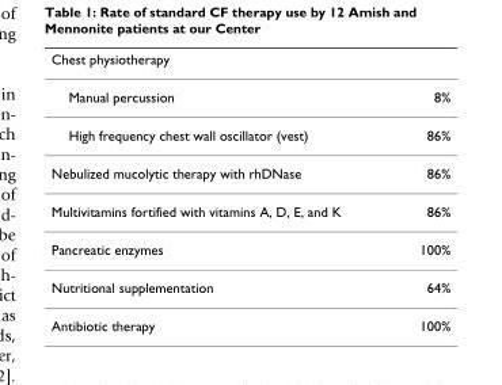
<table><thead><tr><td>Chest physiotherapy</td><td></td></tr></thead><tbody><tr><td>Manual percussion</td><td>8%</td></tr><tr><td>High frequency chest wall oscillator (vest)</td><td>86%</td></tr><tr><td>Nebulized mucolytic therapy with rhDNase</td><td>86%</td></tr><tr><td>Multivitamins fortified with vitamins A, D, E, and K</td><td>86%</td></tr><tr><td>Pancreatic enzymes</td><td>100%</td></tr><tr><td>Nutritional supplementation</td><td>64%</td></tr><tr><td>Antibiotic therapy</td><td>100%</td></tr></tbody></table>